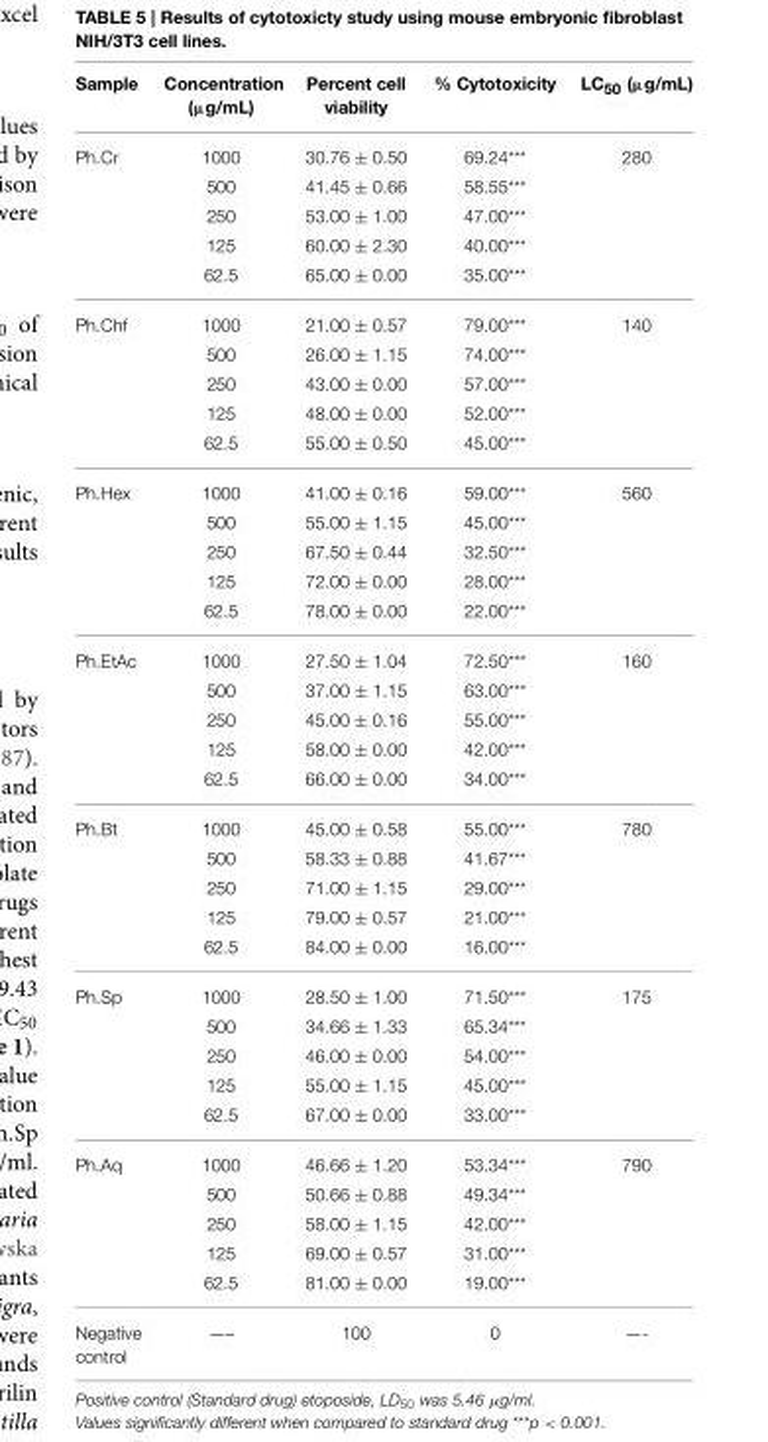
<table><thead><tr><td>Sample</td><td>Concentration (µg/mL)</td><td>Percent cell viability</td><td>% Cytotoxicity</td><td>LC<sub>50</sub> (µg/mL)</td></tr></thead><tbody><tr><td rowspan="5">Ph.Cr</td><td>1000</td><td>30.76 ± 0.50</td><td>69.24***</td><td>280</td></tr><tr><td>500</td><td>41.45 ± 0.66</td><td>58.55***</td><td></td></tr><tr><td>250</td><td>53.00 ± 1.00</td><td>47.00***</td><td></td></tr><tr><td>125</td><td>60.00 ± 2.30</td><td>40.00***</td><td></td></tr><tr><td>62.5</td><td>65.00 ± 0.00</td><td>35.00***</td><td></td></tr><tr><td rowspan="5">Ph.Chf</td><td>1000</td><td>21.00 ± 0.57</td><td>79.00***</td><td>140</td></tr><tr><td>500</td><td>26.00 ± 1.15</td><td>74.00***</td><td></td></tr><tr><td>250</td><td>43.00 ± 0.00</td><td>57.00***</td><td></td></tr><tr><td>125</td><td>48.00 ± 0.00</td><td>52.00***</td><td></td></tr><tr><td>62.5</td><td>55.00 ± 0.50</td><td>45.00***</td><td></td></tr><tr><td rowspan="5">Ph.Hex</td><td>1000</td><td>41.00 ± 0.16</td><td>59.00***</td><td>560</td></tr><tr><td>500</td><td>55.00 ± 1.15</td><td>45.00***</td><td></td></tr><tr><td>250</td><td>67.50 ± 0.44</td><td>32.50***</td><td></td></tr><tr><td>125</td><td>72.00 ± 0.00</td><td>28.00***</td><td></td></tr><tr><td>62.5</td><td>78.00 ± 0.00</td><td>22.00***</td><td></td></tr><tr><td rowspan="5">Ph.EtAc</td><td>1000</td><td>27.50 ± 1.04</td><td>72.50***</td><td>160</td></tr><tr><td>500</td><td>37.00 ± 1.15</td><td>63.00***</td><td></td></tr><tr><td>250</td><td>45.00 ± 0.16</td><td>55.00***</td><td></td></tr><tr><td>125</td><td>58.00 ± 0.00</td><td>42.00***</td><td></td></tr><tr><td>62.5</td><td>66.00 ± 0.00</td><td>34.00***</td><td></td></tr><tr><td rowspan="5">Ph.Bt</td><td>1000</td><td>45.00 ± 0.58</td><td>55.00***</td><td>780</td></tr><tr><td>500</td><td>58.33 ± 0.88</td><td>41.67***</td><td></td></tr><tr><td>250</td><td>71.00 ± 1.15</td><td>29.00***</td><td></td></tr><tr><td>125</td><td>79.00 ± 0.57</td><td>21.00***</td><td></td></tr><tr><td>62.5</td><td>84.00 ± 0.00</td><td>16.00***</td><td></td></tr><tr><td rowspan="5">Ph.Sp</td><td>1000</td><td>28.50 ± 1.00</td><td>71.50***</td><td>175</td></tr><tr><td>500</td><td>34.66 ± 1.33</td><td>65.34***</td><td></td></tr><tr><td>250</td><td>46.00 ± 0.00</td><td>54.00***</td><td></td></tr><tr><td>125</td><td>55.00 ± 1.15</td><td>45.00***</td><td></td></tr><tr><td>62.5</td><td>67.00 ± 0.00</td><td>33.00***</td><td></td></tr><tr><td rowspan="5">Ph.Aq</td><td>1000</td><td>46.66 ± 1.20</td><td>53.34***</td><td>790</td></tr><tr><td>500</td><td>50.66 ± 0.88</td><td>49.34***</td><td></td></tr><tr><td>250</td><td>58.00 ± 1.15</td><td>42.00***</td><td></td></tr><tr><td>125</td><td>69.00 ± 0.57</td><td>31.00***</td><td></td></tr><tr><td>62.5</td><td>81.00 ± 0.00</td><td>19.00***</td><td></td></tr><tr><td>Negative control</td><td>—–</td><td>100</td><td>0</td><td>—-</td></tr></tbody></table>